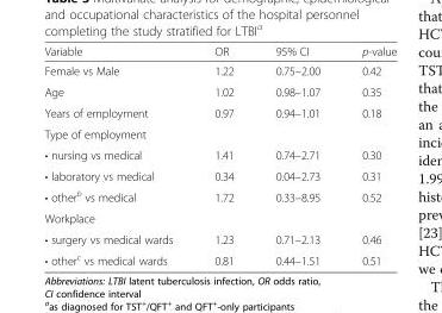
<table><thead><tr><td>Variable</td><td>OR</td><td>95% CI</td><td>p-value</td></tr></thead><tbody><tr><td>Female vs Male</td><td>1.22</td><td>0.75–2.00</td><td>0.42</td></tr><tr><td>Age</td><td>1.02</td><td>0.98–1.07</td><td>0.35</td></tr><tr><td>Years of employment</td><td>0.97</td><td>0.94–1.01</td><td>0.18</td></tr><tr><td colspan="4">Type of employment</td></tr><tr><td>• nursing vs medical</td><td>1.41</td><td>0.74–2.71</td><td>0.30</td></tr><tr><td>• laboratory vs medical</td><td>0.34</td><td>0.04–2.73</td><td>0.31</td></tr><tr><td>• other<sup>b</sup> vs medical</td><td>1.72</td><td>0.33–8.95</td><td>0.52</td></tr><tr><td colspan="4">Workplace</td></tr><tr><td>• surgery vs medical wards</td><td>1.23</td><td>0.71–2.13</td><td>0.46</td></tr><tr><td>• other<sup>c</sup> vs medical wards</td><td>0.81</td><td>0.44–1.51</td><td>0.51</td></tr></tbody></table>